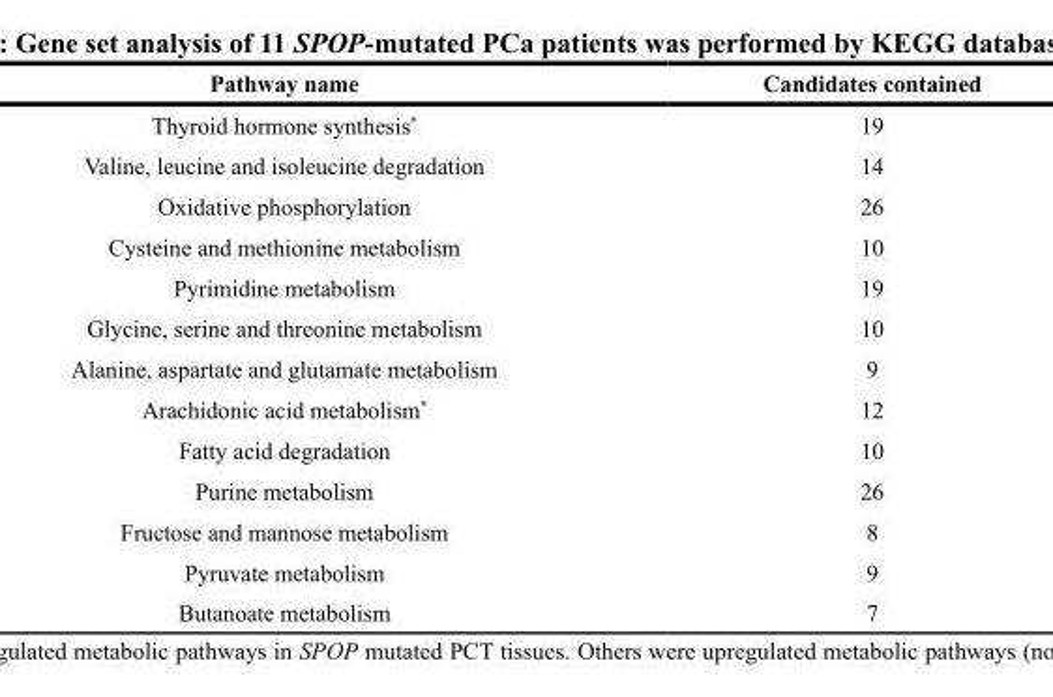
<table><thead><tr><td>Pathway name</td><td>Candidates contained</td></tr></thead><tbody><tr><td>Thyroid hormone synthesis*</td><td>19</td></tr><tr><td>Valine, leucine and isoleucine degradation</td><td>14</td></tr><tr><td>Oxidative phosphorylation</td><td>26</td></tr><tr><td>Cysteine and methionine metabolism</td><td>10</td></tr><tr><td>Pyrimidine metabolism</td><td>19</td></tr><tr><td>Glycine, serine and threonine metabolism</td><td>10</td></tr><tr><td>Alanine, aspartate and glutamate metabolism</td><td>9</td></tr><tr><td>Arachidonic acid metabolism*</td><td>12</td></tr><tr><td>Fatty acid degradation</td><td>10</td></tr><tr><td>Purine metabolism</td><td>26</td></tr><tr><td>Fructose and mannose metabolism</td><td>8</td></tr><tr><td>Pyruvate metabolism</td><td>9</td></tr><tr><td>Butanoate metabolism</td><td>7</td></tr></tbody></table>